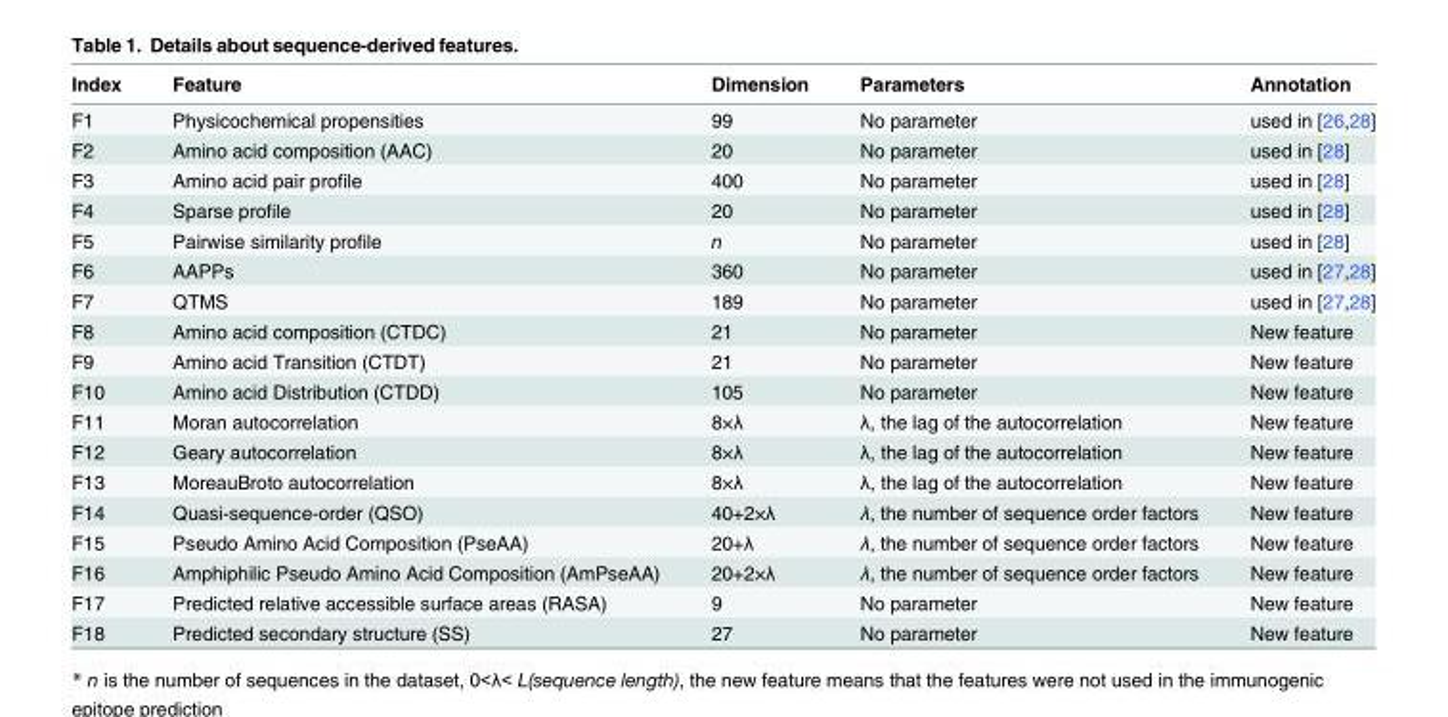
<table><thead><tr><td>Index</td><td>Feature</td><td>Dimension</td><td>Parameters</td><td>Annotation</td></tr></thead><tbody><tr><td>F1</td><td>Physicochemical propensities</td><td>99</td><td>No parameter</td><td>used in [26,28]</td></tr><tr><td>F2</td><td>Amino acid composition (AAC)</td><td>20</td><td>No parameter</td><td>used in [28]</td></tr><tr><td>F3</td><td>Amino acid pair profile</td><td>400</td><td>No parameter</td><td>used in [28]</td></tr><tr><td>F4</td><td>Sparse profile</td><td>20</td><td>No parameter</td><td>used in [28]</td></tr><tr><td>F5</td><td>Pairwise similarity profile</td><td>n</td><td>No parameter</td><td>used in [28]</td></tr><tr><td>F6</td><td>AAPPs</td><td>360</td><td>No parameter</td><td>used in [27,28]</td></tr><tr><td>F7</td><td>QTMS</td><td>189</td><td>No parameter</td><td>used in [27,28]</td></tr><tr><td>F8</td><td>Amino acid composition (CTDC)</td><td>21</td><td>No parameter</td><td>New feature</td></tr><tr><td>F9</td><td>Amino acid Transition (CTDT)</td><td>21</td><td>No parameter</td><td>New feature</td></tr><tr><td>F10</td><td>Amino acid Distribution (CTDD)</td><td>105</td><td>No parameter</td><td>New feature</td></tr><tr><td>F11</td><td>Moran autocorrelation</td><td>8×λ</td><td>λ, the lag of the autocorrelation</td><td>New feature</td></tr><tr><td>F12</td><td>Geary autocorrelation</td><td>8×λ</td><td>λ, the lag of the autocorrelation</td><td>New feature</td></tr><tr><td>F13</td><td>MoreauBroto autocorrelation</td><td>8×λ</td><td>λ, the lag of the autocorrelation</td><td>New feature</td></tr><tr><td>F14</td><td>Quasi-sequence-order (QSO)</td><td>40+2×λ</td><td>λ, the number of sequence order factors</td><td>New feature</td></tr><tr><td>F15</td><td>Pseudo Amino Acid Composition (PseAA)</td><td>20+λ</td><td>λ, the number of sequence order factors</td><td>New feature</td></tr><tr><td>F16</td><td>Amphiphilic Pseudo Amino Acid Composition (AmPseAA)</td><td>20+2×λ</td><td>λ, the number of sequence order factors</td><td>New feature</td></tr><tr><td>F17</td><td>Predicted relative accessible surface areas (RASA)</td><td>9</td><td>No parameter</td><td>New feature</td></tr><tr><td>F18</td><td>Predicted secondary structure (SS)</td><td>27</td><td>No parameter</td><td>New feature</td></tr></tbody></table>